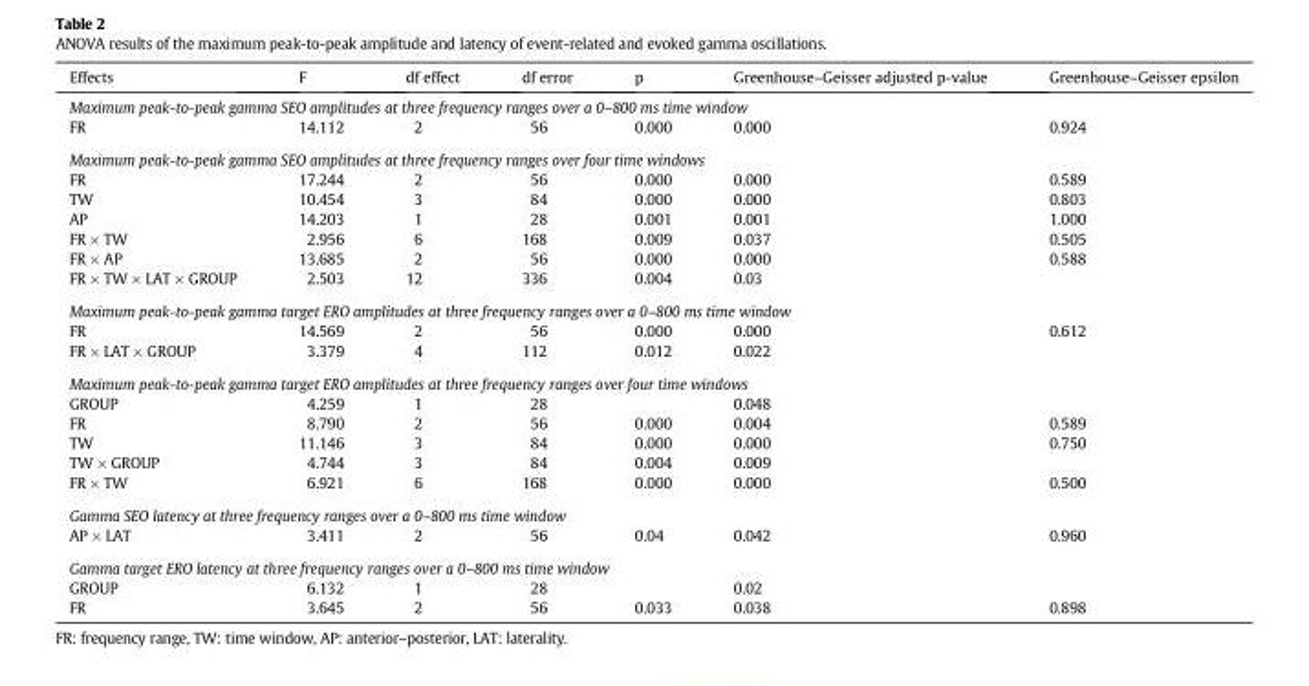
<table><thead><tr><td>Effects</td><td>F</td><td>df effect</td><td>df error</td><td>p</td><td>Greenhouse–Geisser adjusted p-value</td><td>Greenhouse–Geisser epsilon</td></tr></thead><tbody><tr><td colspan="7">Maximum peak-to-peak gamma SEO amplitudes at three frequency ranges over a 0–800 ms time window</td></tr><tr><td>FR</td><td>14.112</td><td>2</td><td>56</td><td>0.000</td><td>0.000</td><td>0.924</td></tr><tr><td colspan="7">Maximum peak-to-peak gamma SEO amplitudes at three frequency ranges over four time windows</td></tr><tr><td>FR</td><td>17.244</td><td>2</td><td>56</td><td>0.000</td><td>0.000</td><td>0.589</td></tr><tr><td>TW</td><td>10.454</td><td>3</td><td>84</td><td>0.000</td><td>0.000</td><td>0.803</td></tr><tr><td>AP</td><td>14.203</td><td>1</td><td>28</td><td>0.001</td><td>0.001</td><td>1.000</td></tr><tr><td>FR × TW</td><td>2.956</td><td>6</td><td>168</td><td>0.009</td><td>0.037</td><td>0.505</td></tr><tr><td>FR × AP</td><td>13.685</td><td>2</td><td>56</td><td>0.000</td><td>0.000</td><td>0.588</td></tr><tr><td>FR × TW × LAT × GROUP</td><td>2.503</td><td>12</td><td>336</td><td>0.004</td><td>0.03</td><td></td></tr><tr><td colspan="7">Maximum peak-to-peak gamma target ERO amplitudes at three frequency ranges over a 0–800 ms time window</td></tr><tr><td>FR</td><td>14.569</td><td>2</td><td>56</td><td>0.000</td><td>0.000</td><td>0.612</td></tr><tr><td>FR × LAT × GROUP</td><td>3.379</td><td>4</td><td>112</td><td>0.012</td><td>0.022</td><td></td></tr><tr><td colspan="7">Maximum peak-to-peak gamma target ERO amplitudes at three frequency ranges over four time windows</td></tr><tr><td>GROUP</td><td>4.259</td><td>1</td><td>28</td><td></td><td>0.048</td><td></td></tr><tr><td>FR</td><td>8.790</td><td>2</td><td>56</td><td>0.000</td><td>0.004</td><td>0.589</td></tr><tr><td>TW</td><td>11.146</td><td>3</td><td>84</td><td>0.000</td><td>0.000</td><td>0.750</td></tr><tr><td>TW × GROUP</td><td>4.744</td><td>3</td><td>84</td><td>0.004</td><td>0.009</td><td></td></tr><tr><td>FR × TW</td><td>6.921</td><td>6</td><td>168</td><td>0.000</td><td>0.000</td><td>0.500</td></tr><tr><td colspan="7">Gamma SEO latency at three frequency ranges over a 0–800 ms time window</td></tr><tr><td>AP × LAT</td><td>3.411</td><td>2</td><td>56</td><td>0.04</td><td>0.042</td><td>0.960</td></tr><tr><td colspan="7">Gamma target ERO latency at three frequency ranges over a 0–800 ms time window</td></tr><tr><td>GROUP</td><td>6.132</td><td>1</td><td>28</td><td></td><td>0.02</td><td></td></tr><tr><td>FR</td><td>3.645</td><td>2</td><td>56</td><td>0.033</td><td>0.038</td><td>0.898</td></tr></tbody></table>